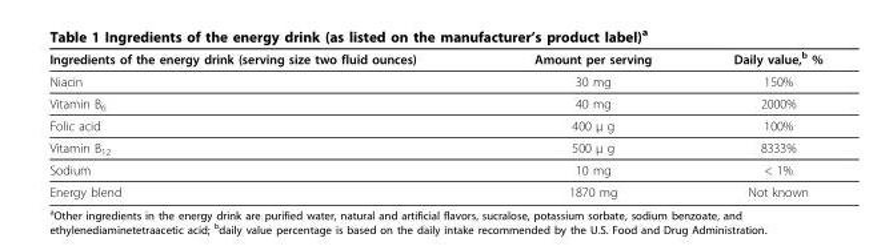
<table><thead><tr><td>Ingredients of the energy drink (serving size two fluid ounces)</td><td>Amount per serving</td><td>Daily value,<sup>b</sup> %</td></tr></thead><tbody><tr><td>Niacin</td><td>30 mg</td><td>150%</td></tr><tr><td>Vitamin B<sub>6</sub></td><td>40 mg</td><td>2000%</td></tr><tr><td>Folic acid</td><td>400 μ g</td><td>100%</td></tr><tr><td>Vitamin B<sub>12</sub></td><td>500 μ g</td><td>8333%</td></tr><tr><td>Sodium</td><td>10 mg</td><td>&lt; 1%</td></tr><tr><td>Energy blend</td><td>1870 mg</td><td>Not known</td></tr></tbody></table>